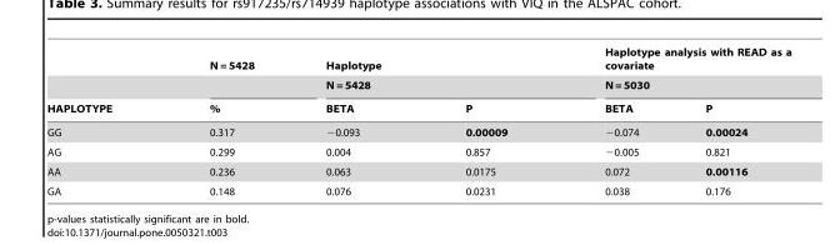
<table><thead><tr><td rowspan="3">HAPLOTYPE</td><td rowspan="3">N = 5428 %</td><td rowspan="2" colspan="2">Haplotype N = 5428</td><td rowspan="2" colspan="2">Haplotype analysis with READ as a covariate N = 5030</td></tr><tr></tr><tr><td>BETA</td><td>P</td><td>BETA</td><td>P</td></tr></thead><tbody><tr><td>GG</td><td>0.317</td><td>−0.093</td><td>0.00009</td><td>−0.074</td><td>0.00024</td></tr><tr><td>AG</td><td>0.299</td><td>0.004</td><td>0.857</td><td>−0.005</td><td>0.821</td></tr><tr><td>AA</td><td>0.236</td><td>0.063</td><td>0.0175</td><td>0.072</td><td>0.00116</td></tr><tr><td>GA</td><td>0.148</td><td>0.076</td><td>0.0231</td><td>0.038</td><td>0.176</td></tr></tbody></table>